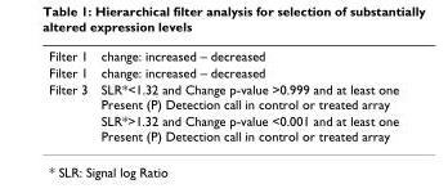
<table><tbody><tr><td>Filter 1</td><td>change: increased – decreased</td></tr><tr><td>Filter 1</td><td>change: increased – decreased</td></tr><tr><td rowspan="2">Filter 3</td><td>SLR*&lt;1.32 and Change p-value &gt;0.999 and at least one Present (P) Detection call in control or treated array</td></tr><tr><td>SLR*&gt;1.32 and Change p-value &lt;0.001 and at least one Present (P) Detection call in control or treated array</td></tr></tbody></table>